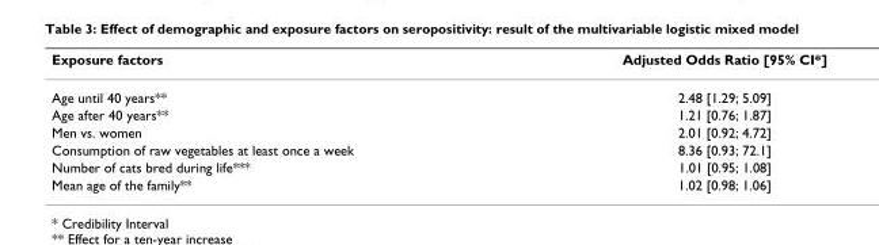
<table><thead><tr><td>Exposure factors</td><td>Adjusted Odds Ratio [95% CI*]</td></tr></thead><tbody><tr><td>Age until 40 years**</td><td>2.48 [1.29; 5.09]</td></tr><tr><td>Age after 40 years**</td><td>1.21 [0.76; 1.87]</td></tr><tr><td>Men vs. women</td><td>2.01 [0.92; 4.72]</td></tr><tr><td>Consumption of raw vegetables at least once a week</td><td>8.36 [0.93; 72.1]</td></tr><tr><td>Number of cats bred during life***</td><td>1.01 [0.95; 1.08]</td></tr><tr><td>Mean age of the family**</td><td>1.02 [0.98; 1.06]</td></tr></tbody></table>